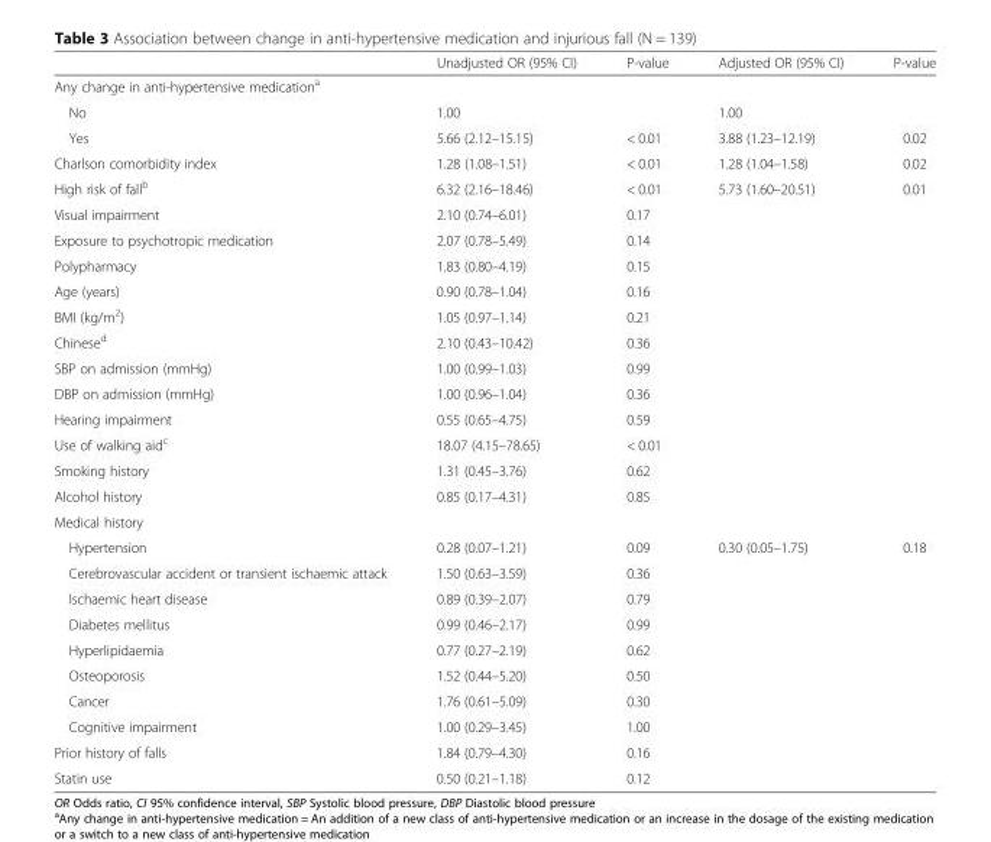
<table><thead><tr><td></td><td>Unadjusted OR (95% CI)</td><td>P-value</td><td>Adjusted OR (95% CI)</td><td>P-value</td></tr></thead><tbody><tr><td colspan="5">Any change in anti-hypertensive medication<sup>a</sup></td></tr><tr><td>No</td><td>1.00</td><td></td><td>1.00</td><td></td></tr><tr><td>Yes</td><td>5.66 (2.12–15.15)</td><td>&lt; 0.01</td><td>3.88 (1.23–12.19)</td><td>0.02</td></tr><tr><td>Charlson comorbidity index</td><td>1.28 (1.08–1.51)</td><td>&lt; 0.01</td><td>1.28 (1.04–1.58)</td><td>0.02</td></tr><tr><td>High risk of fall<sup>b</sup></td><td>6.32 (2.16–18.46)</td><td>&lt; 0.01</td><td>5.73 (1.60–20.51)</td><td>0.01</td></tr><tr><td>Visual impairment</td><td>2.10 (0.74–6.01)</td><td>0.17</td><td></td><td></td></tr><tr><td>Exposure to psychotropic medication</td><td>2.07 (0.78–5.49)</td><td>0.14</td><td></td><td></td></tr><tr><td>Polypharmacy</td><td>1.83 (0.80–4.19)</td><td>0.15</td><td></td><td></td></tr><tr><td>Age (years)</td><td>0.90 (0.78–1.04)</td><td>0.16</td><td></td><td></td></tr><tr><td>BMI (kg/m<sup>2</sup>)</td><td>1.05 (0.97–1.14)</td><td>0.21</td><td></td><td></td></tr><tr><td>Chinese<sup>d</sup></td><td>2.10 (0.43–10.42)</td><td>0.36</td><td></td><td></td></tr><tr><td>SBP on admission (mmHg)</td><td>1.00 (0.99–1.03)</td><td>0.99</td><td></td><td></td></tr><tr><td>DBP on admission (mmHg)</td><td>1.00 (0.96–1.04)</td><td>0.36</td><td></td><td></td></tr><tr><td>Hearing impairment</td><td>0.55 (0.65–4.75)</td><td>0.59</td><td></td><td></td></tr><tr><td>Use of walking aid<sup>c</sup></td><td>18.07 (4.15–78.65)</td><td>&lt; 0.01</td><td></td><td></td></tr><tr><td>Smoking history</td><td>1.31 (0.45–3.76)</td><td>0.62</td><td></td><td></td></tr><tr><td>Alcohol history</td><td>0.85 (0.17–4.31)</td><td>0.85</td><td></td><td></td></tr><tr><td colspan="5">Medical history</td></tr><tr><td>Hypertension</td><td>0.28 (0.07–1.21)</td><td>0.09</td><td>0.30 (0.05–1.75)</td><td>0.18</td></tr><tr><td>Cerebrovascular accident or transient ischaemic attack</td><td>1.50 (0.63–3.59)</td><td>0.36</td><td></td><td></td></tr><tr><td>Ischaemic heart disease</td><td>0.89 (0.39–2.07)</td><td>0.79</td><td></td><td></td></tr><tr><td>Diabetes mellitus</td><td>0.99 (0.46–2.17)</td><td>0.99</td><td></td><td></td></tr><tr><td>Hyperlipidaemia</td><td>0.77 (0.27–2.19)</td><td>0.62</td><td></td><td></td></tr><tr><td>Osteoporosis</td><td>1.52 (0.44–5.20)</td><td>0.50</td><td></td><td></td></tr><tr><td>Cancer</td><td>1.76 (0.61–5.09)</td><td>0.30</td><td></td><td></td></tr><tr><td>Cognitive impairment</td><td>1.00 (0.29–3.45)</td><td>1.00</td><td></td><td></td></tr><tr><td>Prior history of falls</td><td>1.84 (0.79–4.30)</td><td>0.16</td><td></td><td></td></tr><tr><td>Statin use</td><td>0.50 (0.21–1.18)</td><td>0.12</td><td></td><td></td></tr></tbody></table>